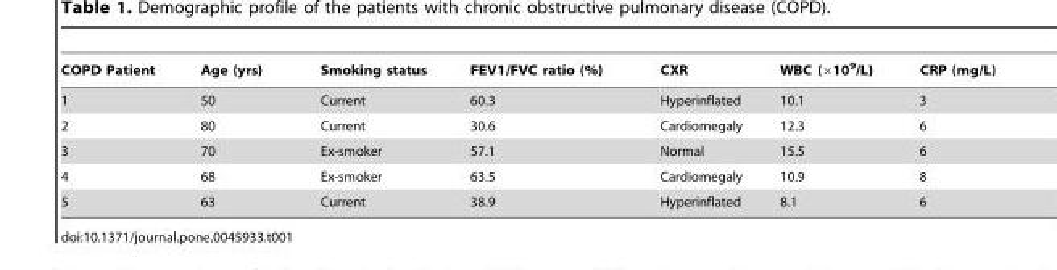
<table><thead><tr><td>COPD Patient</td><td>Age (yrs)</td><td>Smoking status</td><td>FEV1/FVC ratio (%)</td><td>CXR</td><td>WBC (×10<sup>9</sup>/L)</td><td>CRP (mg/L)</td></tr></thead><tbody><tr><td>1</td><td>50</td><td>Current</td><td>60.3</td><td>Hyperinflated</td><td>10.1</td><td>3</td></tr><tr><td>2</td><td>80</td><td>Current</td><td>30.6</td><td>Cardiomegaly</td><td>12.3</td><td>6</td></tr><tr><td>3</td><td>70</td><td>Ex-smoker</td><td>57.1</td><td>Normal</td><td>15.5</td><td>6</td></tr><tr><td>4</td><td>68</td><td>Ex-smoker</td><td>63.5</td><td>Cardiomegaly</td><td>10.9</td><td>8</td></tr><tr><td>5</td><td>63</td><td>Current</td><td>38.9</td><td>Hyperinflated</td><td>8.1</td><td>6</td></tr></tbody></table>